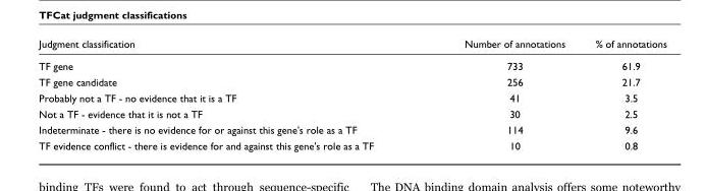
<table><thead><tr><td>Judgment classification</td><td>Number of annotations</td><td>% of annotations</td></tr></thead><tbody><tr><td>TF gene</td><td>733</td><td>61.9</td></tr><tr><td>TF gene candidate</td><td>256</td><td>21.7</td></tr><tr><td>Probably not a TF - no evidence that it is a TF</td><td>41</td><td>3.5</td></tr><tr><td>Not a TF - evidence that it is not a TF</td><td>30</td><td>2.5</td></tr><tr><td>Indeterminate - there is no evidence for or against this gene&#x27;s role as a TF</td><td>114</td><td>9.6</td></tr><tr><td>TF evidence conflict - there is evidence for and against this gene&#x27;s role as a TF</td><td>10</td><td>0.8</td></tr></tbody></table>